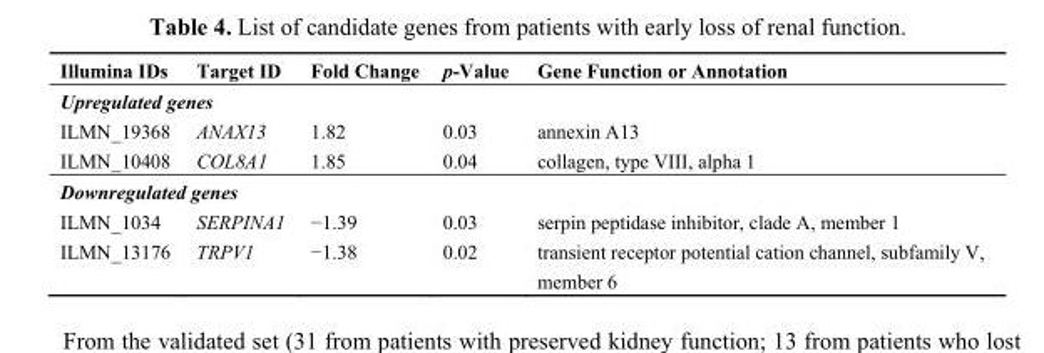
<table><thead><tr><td>Illumina IDs</td><td>Target ID</td><td>Fold Change</td><td>p-Value</td><td>Gene Function or Annotation</td></tr></thead><tbody><tr><td colspan="5">Upregulated genes</td></tr><tr><td>ILMN_19368</td><td>ANAX13</td><td>1.82</td><td>0.03</td><td>annexin A13</td></tr><tr><td>ILMN_10408</td><td>COL8A1</td><td>1.85</td><td>0.04</td><td>collagen, type VIII, alpha 1</td></tr><tr><td colspan="5">Downregulated genes</td></tr><tr><td>ILMN_1034</td><td>SERPINA1</td><td>−1.39</td><td>0.03</td><td>serpin peptidase inhibitor, clade A, member 1</td></tr><tr><td>ILMN_13176</td><td>TRPV1</td><td>−1.38</td><td>0.02</td><td>transient receptor potential cation channel, subfamily V, member 6</td></tr></tbody></table>